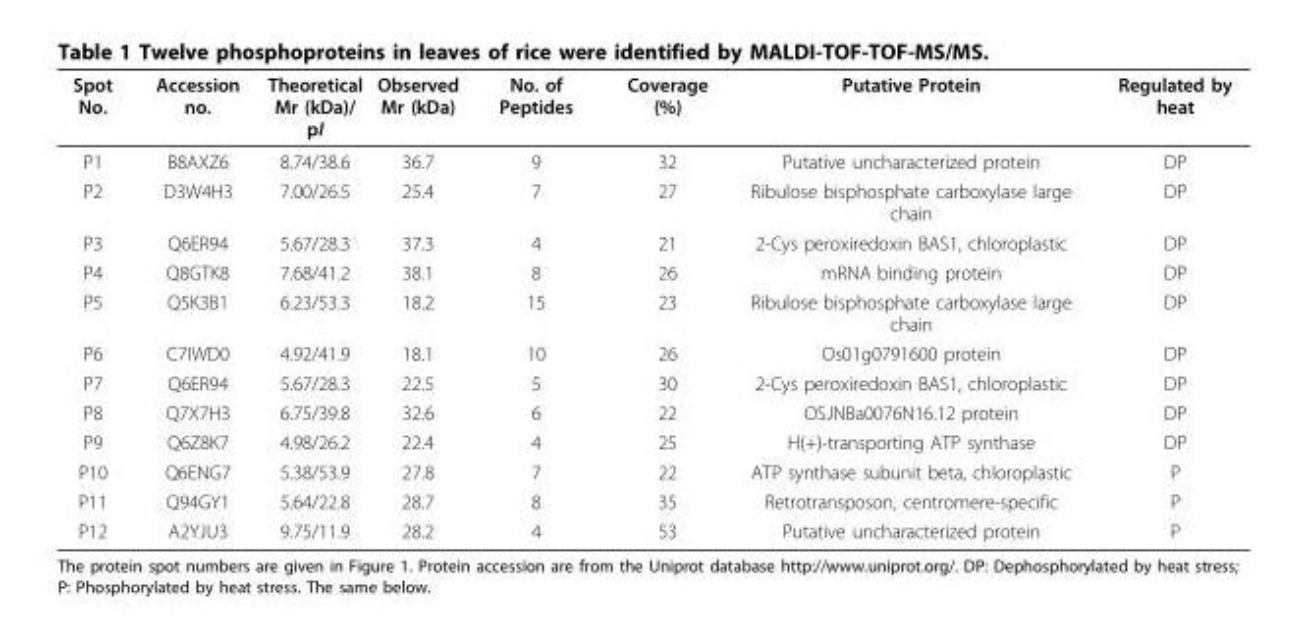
<table><thead><tr><td>Spot No.</td><td>Accession no.</td><td>Theoretical Mr (kDa)/ pI</td><td>Observed Mr (kDa)</td><td>No. of Peptides</td><td>Coverage (%)</td><td>Putative Protein</td><td>Regulated by heat</td></tr></thead><tbody><tr><td>P1</td><td>B8AXZ6</td><td>8.74/38.6</td><td>36.7</td><td>9</td><td>32</td><td>Putative uncharacterized protein</td><td>DP</td></tr><tr><td>P2</td><td>D3W4H3</td><td>7.00/26.5</td><td>25.4</td><td>7</td><td>27</td><td>Ribulose bisphosphate carboxylase large chain</td><td>DP</td></tr><tr><td>P3</td><td>Q6ER94</td><td>5.67/28.3</td><td>37.3</td><td>4</td><td>21</td><td>2-Cys peroxiredoxin BAS1, chloroplastic</td><td>DP</td></tr><tr><td>P4</td><td>Q8GTK8</td><td>7.68/41.2</td><td>38.1</td><td>8</td><td>26</td><td>mRNA binding protein</td><td>DP</td></tr><tr><td>P5</td><td>Q5K3B1</td><td>6.23/53.3</td><td>18.2</td><td>15</td><td>23</td><td>Ribulose bisphosphate carboxylase large chain</td><td>DP</td></tr><tr><td>P6</td><td>C7IWD0</td><td>4.92/41.9</td><td>18.1</td><td>10</td><td>26</td><td>Os01g0791600 protein</td><td>DP</td></tr><tr><td>P7</td><td>Q6ER94</td><td>5.67/28.3</td><td>22.5</td><td>5</td><td>30</td><td>2-Cys peroxiredoxin BAS1, chloroplastic</td><td>DP</td></tr><tr><td>P8</td><td>Q7X7H3</td><td>6.75/39.8</td><td>32.6</td><td>6</td><td>22</td><td>OSJNBa0076N16.12 protein</td><td>DP</td></tr><tr><td>P9</td><td>Q6Z8K7</td><td>4.98/26.2</td><td>22.4</td><td>4</td><td>25</td><td>H(+)-transporting ATP synthase</td><td>DP</td></tr><tr><td>P10</td><td>Q6ENG7</td><td>5.38/53.9</td><td>27.8</td><td>7</td><td>22</td><td>ATP synthase subunit beta, chloroplastic</td><td>P</td></tr><tr><td>P11</td><td>Q94GY1</td><td>5.64/22.8</td><td>28.7</td><td>8</td><td>35</td><td>Retrotransposon, centromere-specific</td><td>P</td></tr><tr><td>P12</td><td>A2YJU3</td><td>9.75/11.9</td><td>28.2</td><td>4</td><td>53</td><td>Putative uncharacterized protein</td><td>P</td></tr></tbody></table>